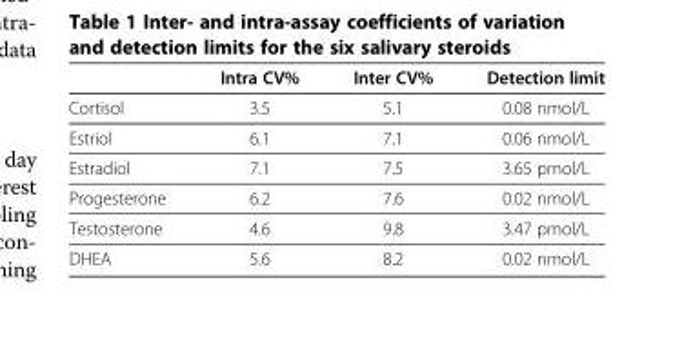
<table><thead><tr><td></td><td>Intra CV%</td><td>Inter CV%</td><td>Detection limit</td></tr></thead><tbody><tr><td>Cortisol</td><td>3.5</td><td>5.1</td><td>0.08 nmol/L</td></tr><tr><td>Estriol</td><td>6.1</td><td>7.1</td><td>0.06 nmol/L</td></tr><tr><td>Estradiol</td><td>7.1</td><td>7.5</td><td>3.65 pmol/L</td></tr><tr><td>Progesterone</td><td>6.2</td><td>7.6</td><td>0.02 nmol/L</td></tr><tr><td>Testosterone</td><td>4.6</td><td>9.8</td><td>3.47 pmol/L</td></tr><tr><td>DHEA</td><td>5.6</td><td>8.2</td><td>0.02 nmol/L</td></tr></tbody></table>